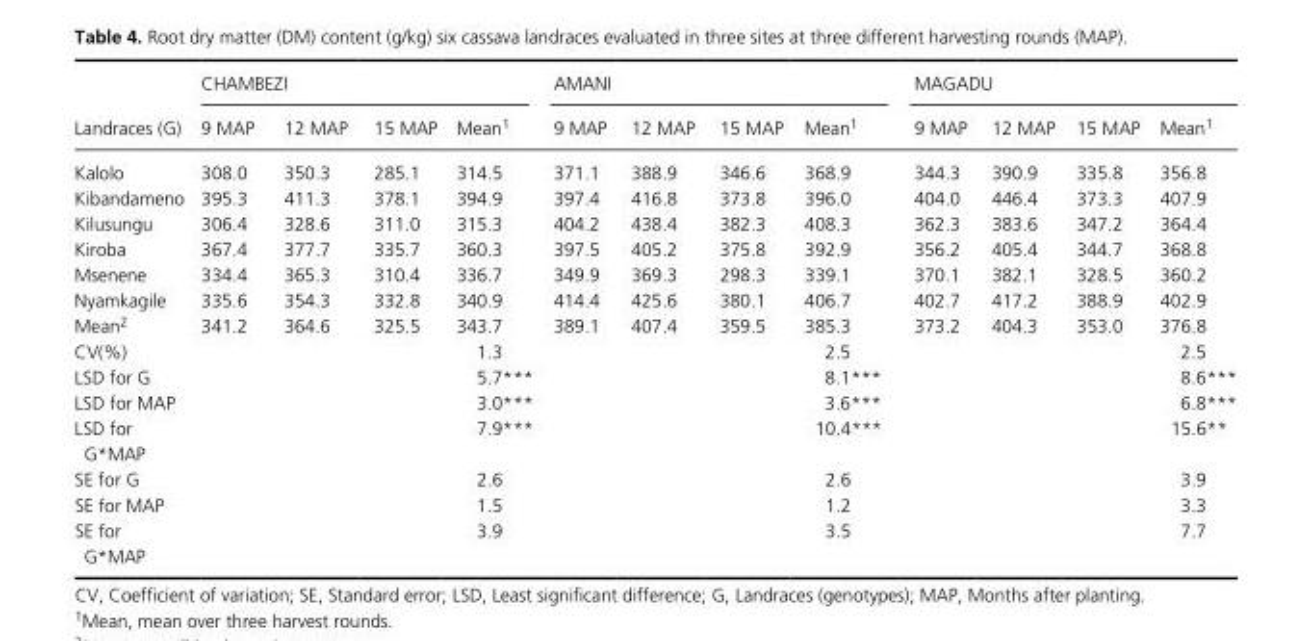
<table><thead><tr><td rowspan="2">Landraces (G)</td><td colspan="4">CHAMBEZI</td><td colspan="4">AMANI</td><td colspan="4">MAGADU</td></tr><tr><td>9 MAP</td><td>12 MAP</td><td>15 MAP</td><td>Mean1</td><td>9 MAP</td><td>12 MAP</td><td>15 MAP</td><td>Mean1</td><td>9 MAP</td><td>12 MAP</td><td>15 MAP</td><td>Mean1</td></tr></thead><tbody><tr><td>Kalolo</td><td>308.0</td><td>350.3</td><td>285.1</td><td>314.5</td><td>371.1</td><td>388.9</td><td>346.6</td><td>368.9</td><td>344.3</td><td>390.9</td><td>335.8</td><td>356.8</td></tr><tr><td>Kibandameno</td><td>395.3</td><td>411.3</td><td>378.1</td><td>394.9</td><td>397.4</td><td>416.8</td><td>373.8</td><td>396.0</td><td>404.0</td><td>446.4</td><td>373.3</td><td>407.9</td></tr><tr><td>Kilusungu</td><td>306.4</td><td>328.6</td><td>311.0</td><td>315.3</td><td>404.2</td><td>438.4</td><td>382.3</td><td>408.3</td><td>362.3</td><td>383.6</td><td>347.2</td><td>364.4</td></tr><tr><td>Kiroba</td><td>367.4</td><td>377.7</td><td>335.7</td><td>360.3</td><td>397.5</td><td>405.2</td><td>375.8</td><td>392.9</td><td>356.2</td><td>405.4</td><td>344.7</td><td>368.8</td></tr><tr><td>Msenene</td><td>334.4</td><td>365.3</td><td>310.4</td><td>336.7</td><td>349.9</td><td>369.3</td><td>298.3</td><td>339.1</td><td>370.1</td><td>382.1</td><td>328.5</td><td>360.2</td></tr><tr><td>Nyamkagile</td><td>335.6</td><td>354.3</td><td>332.8</td><td>340.9</td><td>414.4</td><td>425.6</td><td>380.1</td><td>406.7</td><td>402.7</td><td>417.2</td><td>388.9</td><td>402.9</td></tr><tr><td>Mean2</td><td>341.2</td><td>364.6</td><td>325.5</td><td>343.7</td><td>389.1</td><td>407.4</td><td>359.5</td><td>385.3</td><td>373.2</td><td>404.3</td><td>353.0</td><td>376.8</td></tr><tr><td>CV(%)</td><td></td><td></td><td></td><td>1.3</td><td></td><td></td><td></td><td>2.5</td><td></td><td></td><td></td><td>2.5</td></tr><tr><td>LSD for G</td><td></td><td></td><td></td><td>5.7***</td><td></td><td></td><td></td><td>8.1***</td><td></td><td></td><td></td><td>8.6***</td></tr><tr><td>LSD for MAP</td><td></td><td></td><td></td><td>3.0***</td><td></td><td></td><td></td><td>3.6***</td><td></td><td></td><td></td><td>6.8***</td></tr><tr><td>LSD for G*MAP</td><td></td><td></td><td></td><td>7.9***</td><td></td><td></td><td></td><td>10.4***</td><td></td><td></td><td></td><td>15.6**</td></tr><tr><td>SE for G</td><td></td><td></td><td></td><td>2.6</td><td></td><td></td><td></td><td>2.6</td><td></td><td></td><td></td><td>3.9</td></tr><tr><td>SE for MAP</td><td></td><td></td><td></td><td>1.5</td><td></td><td></td><td></td><td>1.2</td><td></td><td></td><td></td><td>3.3</td></tr><tr><td>SE for G*MAP</td><td></td><td></td><td></td><td>3.9</td><td></td><td></td><td></td><td>3.5</td><td></td><td></td><td></td><td>7.7</td></tr></tbody></table>